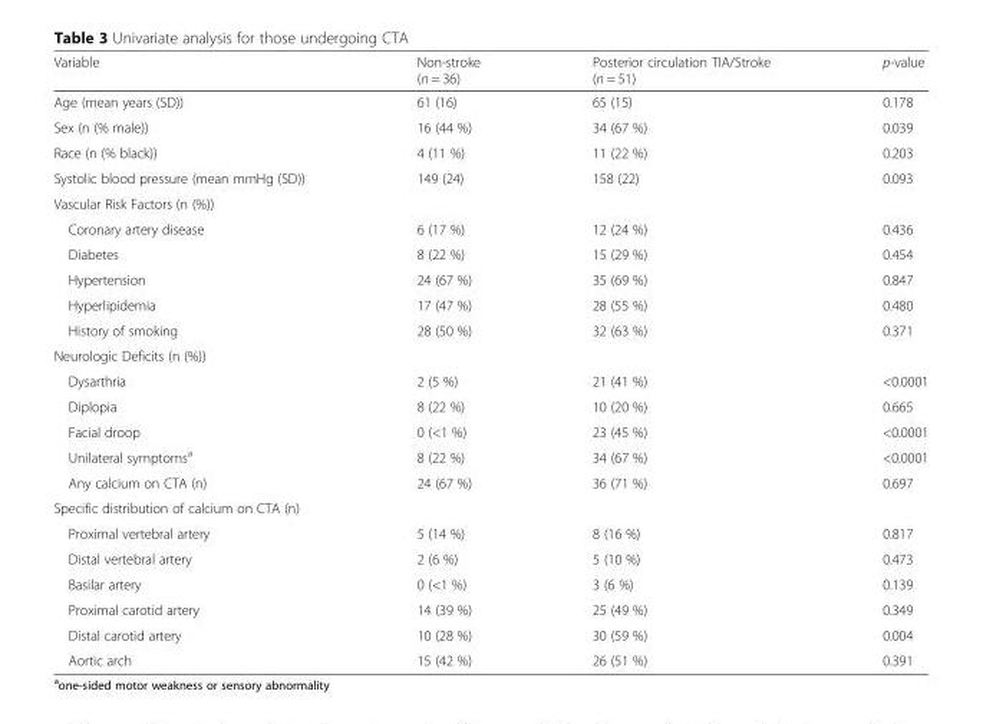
<table><thead><tr><td>Variable</td><td>Non-stroke (n = 36)</td><td>Posterior circulation TIA/Stroke (n = 51)</td><td>p-value</td></tr></thead><tbody><tr><td>Age (mean years (SD))</td><td>61 (16)</td><td>65 (15)</td><td>0.178</td></tr><tr><td>Sex (n (% male))</td><td>16 (44 %)</td><td>34 (67 %)</td><td>0.039</td></tr><tr><td>Race (n (% black))</td><td>4 (11 %)</td><td>11 (22 %)</td><td>0.203</td></tr><tr><td>Systolic blood pressure (mean mmHg (SD))</td><td>149 (24)</td><td>158 (22)</td><td>0.093</td></tr><tr><td colspan="4">Vascular Risk Factors (n (%))</td></tr><tr><td>Coronary artery disease</td><td>6 (17 %)</td><td>12 (24 %)</td><td>0.436</td></tr><tr><td>Diabetes</td><td>8 (22 %)</td><td>15 (29 %)</td><td>0.454</td></tr><tr><td>Hypertension</td><td>24 (67 %)</td><td>35 (69 %)</td><td>0.847</td></tr><tr><td>Hyperlipidemia</td><td>17 (47 %)</td><td>28 (55 %)</td><td>0.480</td></tr><tr><td>History of smoking</td><td>28 (50 %)</td><td>32 (63 %)</td><td>0.371</td></tr><tr><td colspan="4">Neurologic Deficits (n (%))</td></tr><tr><td>Dysarthria</td><td>2 (5 %)</td><td>21 (41 %)</td><td>&lt;0.0001</td></tr><tr><td>Diplopia</td><td>8 (22 %)</td><td>10 (20 %)</td><td>0.665</td></tr><tr><td>Facial droop</td><td>0 (&lt;1 %)</td><td>23 (45 %)</td><td>&lt;0.0001</td></tr><tr><td>Unilateral symptoms<sup>a</sup></td><td>8 (22 %)</td><td>34 (67 %)</td><td>&lt;0.0001</td></tr><tr><td>Any calcium on CTA (n)</td><td>24 (67 %)</td><td>36 (71 %)</td><td>0.697</td></tr><tr><td colspan="4">Specific distribution of calcium on CTA (n)</td></tr><tr><td>Proximal vertebral artery</td><td>5 (14 %)</td><td>8 (16 %)</td><td>0.817</td></tr><tr><td>Distal vertebral artery</td><td>2 (6 %)</td><td>5 (10 %)</td><td>0.473</td></tr><tr><td>Basilar artery</td><td>0 (&lt;1 %)</td><td>3 (6 %)</td><td>0.139</td></tr><tr><td>Proximal carotid artery</td><td>14 (39 %)</td><td>25 (49 %)</td><td>0.349</td></tr><tr><td>Distal carotid artery</td><td>10 (28 %)</td><td>30 (59 %)</td><td>0.004</td></tr><tr><td>Aortic arch</td><td>15 (42 %)</td><td>26 (51 %)</td><td>0.391</td></tr></tbody></table>